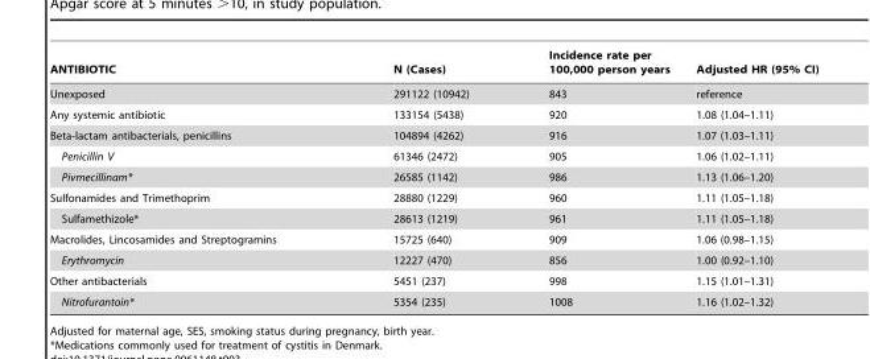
<table><thead><tr><td>ANTIBIOTIC</td><td>N (Cases)</td><td>Incidence rate per 100,000 person years</td><td>Adjusted HR (95% CI)</td></tr></thead><tbody><tr><td>Unexposed</td><td>291122 (10942)</td><td>843</td><td>reference</td></tr><tr><td>Any systemic antibiotic</td><td>133154 (5438)</td><td>920</td><td>1.08 (1.04–1.11)</td></tr><tr><td>Beta-lactam antibacterials, penicillins</td><td>104894 (4262)</td><td>916</td><td>1.07 (1.03–1.11)</td></tr><tr><td>Penicillin V</td><td>61346 (2472)</td><td>905</td><td>1.06 (1.02–1.11)</td></tr><tr><td>Pivmecillinam*</td><td>26585 (1142)</td><td>986</td><td>1.13 (1.06–1.20)</td></tr><tr><td>Sulfonamides and Trimethoprim</td><td>28880 (1229)</td><td>960</td><td>1.11 (1.05–1.18)</td></tr><tr><td>Sulfamethizole*</td><td>28613 (1219)</td><td>961</td><td>1.11 (1.05–1.18)</td></tr><tr><td>Macrolides, Lincosamides and Streptogramins</td><td>15725 (640)</td><td>909</td><td>1.06 (0.98–1.15)</td></tr><tr><td>Erythromycin</td><td>12227 (470)</td><td>856</td><td>1.00 (0.92–1.10)</td></tr><tr><td>Other antibacterials</td><td>5451 (237)</td><td>998</td><td>1.15 (1.01–1.31)</td></tr><tr><td>Nitrofurantoin*</td><td>5354 (235)</td><td>1008</td><td>1.16 (1.02–1.32)</td></tr></tbody></table>